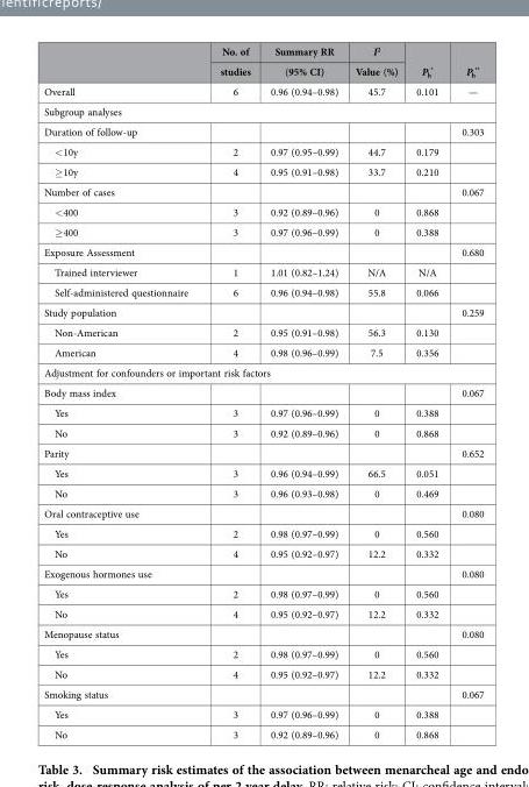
<table><thead><tr><td rowspan="2"></td><td rowspan="2">No. of studies</td><td rowspan="2">Summary RR (95% CI)</td><td rowspan="2">I<sup>2</sup> Value (%)</td><td rowspan="2">Ph *</td><td rowspan="2">Ph **</td></tr><tr></tr></thead><tbody><tr><td>Overall</td><td>6</td><td>0.96 (0.94–0.98)</td><td>45.7</td><td>0.101</td><td>—</td></tr><tr><td colspan="6">Subgroup analyses</td></tr><tr><td>Duration of follow-up</td><td></td><td></td><td></td><td></td><td>0.303</td></tr><tr><td>&lt; 10y</td><td>2</td><td>0.97 (0.95–0.99)</td><td>44.7</td><td>0.179</td><td></td></tr><tr><td>≥ 10y</td><td>4</td><td>0.95 (0.91–0.98)</td><td>33.7</td><td>0.210</td><td></td></tr><tr><td>Number of cases</td><td></td><td></td><td></td><td></td><td>0.067</td></tr><tr><td>&lt; 400</td><td>3</td><td>0.92 (0.89–0.96)</td><td>0</td><td>0.868</td><td></td></tr><tr><td>≥ 400</td><td>3</td><td>0.97 (0.96–0.99)</td><td>0</td><td>0.388</td><td></td></tr><tr><td>Exposure Assessment</td><td></td><td></td><td></td><td></td><td>0.680</td></tr><tr><td>Trained interviewer</td><td>1</td><td>1.01 (0.82–1.24)</td><td>N/A</td><td>N/A</td><td></td></tr><tr><td>Self-administered questionnaire</td><td>6</td><td>0.96 (0.94–0.98)</td><td>55.8</td><td>0.066</td><td></td></tr><tr><td>Study population</td><td></td><td></td><td></td><td></td><td>0.259</td></tr><tr><td>Non-American</td><td>2</td><td>0.95 (0.91–0.98)</td><td>56.3</td><td>0.130</td><td></td></tr><tr><td>American</td><td>4</td><td>0.98 (0.96–0.99)</td><td>7.5</td><td>0.356</td><td></td></tr><tr><td colspan="6">Adjustment for confounders or important risk factors</td></tr><tr><td>Body mass index</td><td></td><td></td><td></td><td></td><td>0.067</td></tr><tr><td>Yes</td><td>3</td><td>0.97 (0.96–0.99)</td><td>0</td><td>0.388</td><td></td></tr><tr><td>No</td><td>3</td><td>0.92 (0.89–0.96)</td><td>0</td><td>0.868</td><td></td></tr><tr><td>Parity</td><td></td><td></td><td></td><td></td><td>0.652</td></tr><tr><td>Yes</td><td>3</td><td>0.96 (0.94–0.99)</td><td>66.5</td><td>0.051</td><td></td></tr><tr><td>No</td><td>3</td><td>0.96 (0.93–0.98)</td><td>0</td><td>0.469</td><td></td></tr><tr><td>Oral contraceptive use</td><td></td><td></td><td></td><td></td><td>0.080</td></tr><tr><td>Yes</td><td>2</td><td>0.98 (0.97–0.99)</td><td>0</td><td>0.560</td><td></td></tr><tr><td>No</td><td>4</td><td>0.95 (0.92–0.97)</td><td>12.2</td><td>0.332</td><td></td></tr><tr><td>Exogenous hormones use</td><td></td><td></td><td></td><td></td><td>0.080</td></tr><tr><td>Yes</td><td>2</td><td>0.98 (0.97–0.99)</td><td>0</td><td>0.560</td><td></td></tr><tr><td>No</td><td>4</td><td>0.95 (0.92–0.97)</td><td>12.2</td><td>0.332</td><td></td></tr><tr><td>Menopause status</td><td></td><td></td><td></td><td></td><td>0.080</td></tr><tr><td>Yes</td><td>2</td><td>0.98 (0.97–0.99)</td><td>0</td><td>0.560</td><td></td></tr><tr><td>No</td><td>4</td><td>0.95 (0.92–0.97)</td><td>12.2</td><td>0.332</td><td></td></tr><tr><td>Smoking status</td><td></td><td></td><td></td><td></td><td>0.067</td></tr><tr><td>Yes</td><td>3</td><td>0.97 (0.96–0.99)</td><td>0</td><td>0.388</td><td></td></tr><tr><td>No</td><td>3</td><td>0.92 (0.89–0.96)</td><td>0</td><td>0.868</td><td></td></tr></tbody></table>